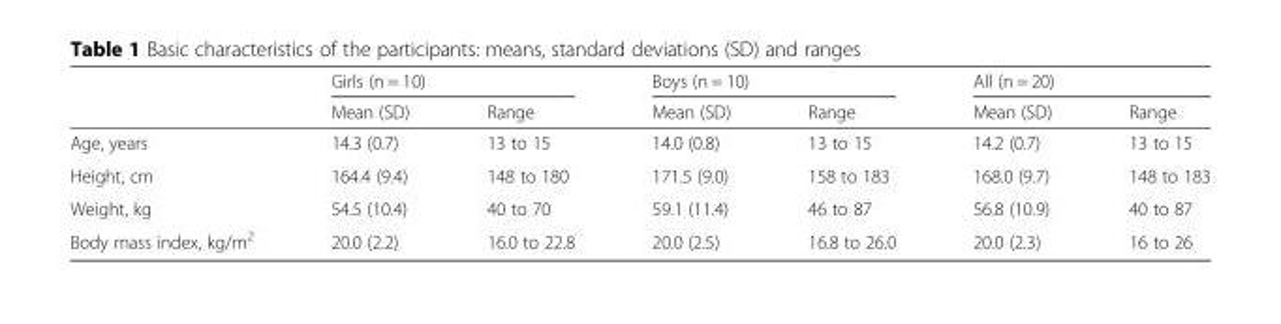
<table><thead><tr><td rowspan="2"></td><td colspan="2">Girls (n = 10)</td><td colspan="2">Boys (n = 10)</td><td colspan="2">All (n = 20)</td></tr><tr><td>Mean (SD)</td><td>Range</td><td>Mean (SD)</td><td>Range</td><td>Mean (SD)</td><td>Range</td></tr></thead><tbody><tr><td>Age, years</td><td>14.3 (0.7)</td><td>13 to 15</td><td>14.0 (0.8)</td><td>13 to 15</td><td>14.2 (0.7)</td><td>13 to 15</td></tr><tr><td>Height, cm</td><td>164.4 (9.4)</td><td>148 to 180</td><td>171.5 (9.0)</td><td>158 to 183</td><td>168.0 (9.7)</td><td>148 to 183</td></tr><tr><td>Weight, kg</td><td>54.5 (10.4)</td><td>40 to 70</td><td>59.1 (11.4)</td><td>46 to 87</td><td>56.8 (10.9)</td><td>40 to 87</td></tr><tr><td>Body mass index, kg/m<sup>2</sup></td><td>20.0 (2.2)</td><td>16.0 to 22.8</td><td>20.0 (2.5)</td><td>16.8 to 26.0</td><td>20.0 (2.3)</td><td>16 to 26</td></tr></tbody></table>